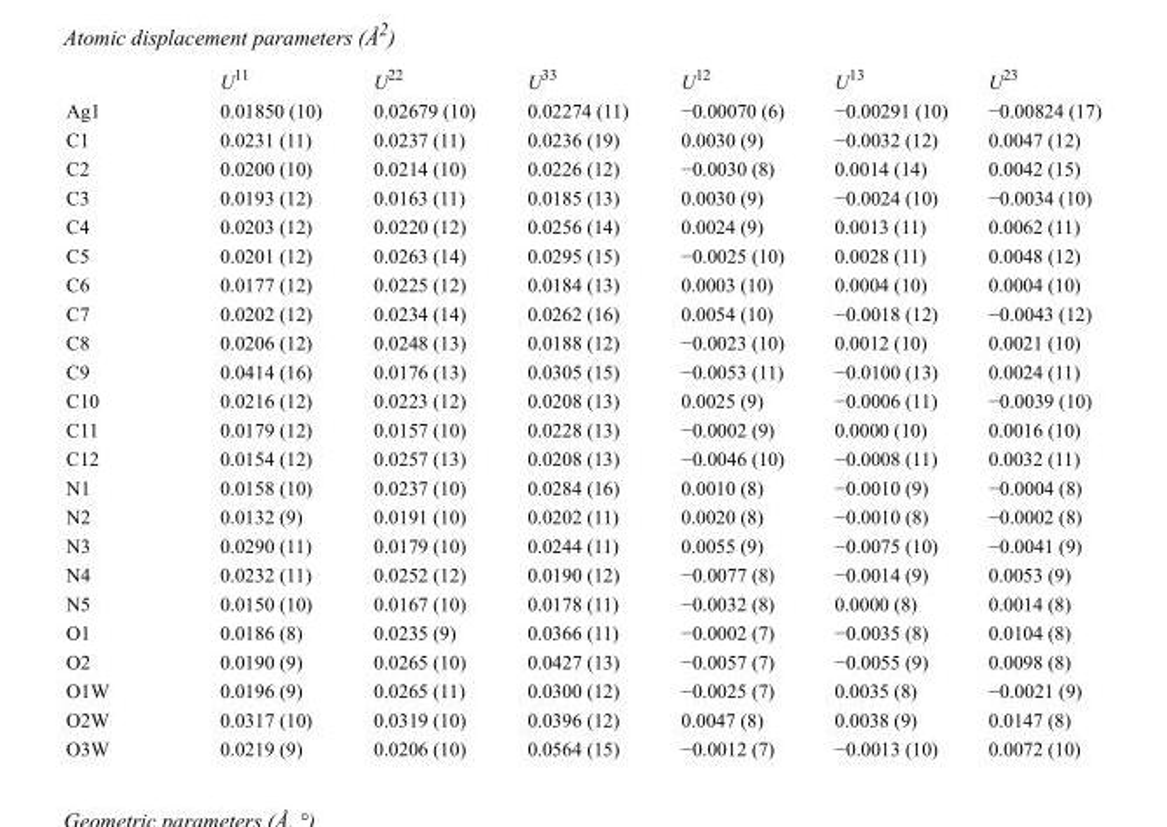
<table><thead><tr><td></td><td>U<sup>11</sup></td><td>U<sup>22</sup></td><td>U<sup>33</sup></td><td>U<sup>12</sup></td><td>U<sup>13</sup></td><td>U<sup>23</sup></td></tr></thead><tbody><tr><td>Ag1</td><td>0.01850 (10)</td><td>0.02679 (10)</td><td>0.02274 (11)</td><td>−0.00070 (6)</td><td>−0.00291 (10)</td><td>−0.00824 (17)</td></tr><tr><td>C1</td><td>0.0231 (11)</td><td>0.0237 (11)</td><td>0.0236 (19)</td><td>0.0030 (9)</td><td>−0.0032 (12)</td><td>0.0047 (12)</td></tr><tr><td>C2</td><td>0.0200 (10)</td><td>0.0214 (10)</td><td>0.0226 (12)</td><td>−0.0030 (8)</td><td>0.0014 (14)</td><td>0.0042 (15)</td></tr><tr><td>C3</td><td>0.0193 (12)</td><td>0.0163 (11)</td><td>0.0185 (13)</td><td>0.0030 (9)</td><td>−0.0024 (10)</td><td>−0.0034 (10)</td></tr><tr><td>C4</td><td>0.0203 (12)</td><td>0.0220 (12)</td><td>0.0256 (14)</td><td>0.0024 (9)</td><td>0.0013 (11)</td><td>0.0062 (11)</td></tr><tr><td>C5</td><td>0.0201 (12)</td><td>0.0263 (14)</td><td>0.0295 (15)</td><td>−0.0025 (10)</td><td>0.0028 (11)</td><td>0.0048 (12)</td></tr><tr><td>C6</td><td>0.0177 (12)</td><td>0.0225 (12)</td><td>0.0184 (13)</td><td>0.0003 (10)</td><td>0.0004 (10)</td><td>0.0004 (10)</td></tr><tr><td>C7</td><td>0.0202 (12)</td><td>0.0234 (14)</td><td>0.0262 (16)</td><td>0.0054 (10)</td><td>−0.0018 (12)</td><td>−0.0043 (12)</td></tr><tr><td>C8</td><td>0.0206 (12)</td><td>0.0248 (13)</td><td>0.0188 (12)</td><td>−0.0023 (10)</td><td>0.0012 (10)</td><td>0.0021 (10)</td></tr><tr><td>C9</td><td>0.0414 (16)</td><td>0.0176 (13)</td><td>0.0305 (15)</td><td>−0.0053 (11)</td><td>−0.0100 (13)</td><td>0.0024 (11)</td></tr><tr><td>C10</td><td>0.0216 (12)</td><td>0.0223 (12)</td><td>0.0208 (13)</td><td>0.0025 (9)</td><td>−0.0006 (11)</td><td>−0.0039 (10)</td></tr><tr><td>C11</td><td>0.0179 (12)</td><td>0.0157 (10)</td><td>0.0228 (13)</td><td>−0.0002 (9)</td><td>0.0000 (10)</td><td>0.0016 (10)</td></tr><tr><td>C12</td><td>0.0154 (12)</td><td>0.0257 (13)</td><td>0.0208 (13)</td><td>−0.0046 (10)</td><td>−0.0008 (11)</td><td>0.0032 (11)</td></tr><tr><td>N1</td><td>0.0158 (10)</td><td>0.0237 (10)</td><td>0.0284 (16)</td><td>0.0010 (8)</td><td>−0.0010 (9)</td><td>−0.0004 (8)</td></tr><tr><td>N2</td><td>0.0132 (9)</td><td>0.0191 (10)</td><td>0.0202 (11)</td><td>0.0020 (8)</td><td>−0.0010 (8)</td><td>−0.0002 (8)</td></tr><tr><td>N3</td><td>0.0290 (11)</td><td>0.0179 (10)</td><td>0.0244 (11)</td><td>0.0055 (9)</td><td>−0.0075 (10)</td><td>−0.0041 (9)</td></tr><tr><td>N4</td><td>0.0232 (11)</td><td>0.0252 (12)</td><td>0.0190 (12)</td><td>−0.0077 (8)</td><td>−0.0014 (9)</td><td>0.0053 (9)</td></tr><tr><td>N5</td><td>0.0150 (10)</td><td>0.0167 (10)</td><td>0.0178 (11)</td><td>−0.0032 (8)</td><td>0.0000 (8)</td><td>0.0014 (8)</td></tr><tr><td>O1</td><td>0.0186 (8)</td><td>0.0235 (9)</td><td>0.0366 (11)</td><td>−0.0002 (7)</td><td>−0.0035 (8)</td><td>0.0104 (8)</td></tr><tr><td>O2</td><td>0.0190 (9)</td><td>0.0265 (10)</td><td>0.0427 (13)</td><td>−0.0057 (7)</td><td>−0.0055 (9)</td><td>0.0098 (8)</td></tr><tr><td>O1W</td><td>0.0196 (9)</td><td>0.0265 (11)</td><td>0.0300 (12)</td><td>−0.0025 (7)</td><td>0.0035 (8)</td><td>−0.0021 (9)</td></tr><tr><td>O2W</td><td>0.0317 (10)</td><td>0.0319 (10)</td><td>0.0396 (12)</td><td>0.0047 (8)</td><td>0.0038 (9)</td><td>0.0147 (8)</td></tr><tr><td>O3W</td><td>0.0219 (9)</td><td>0.0206 (10)</td><td>0.0564 (15)</td><td>−0.0012 (7)</td><td>−0.0013 (10)</td><td>0.0072 (10)</td></tr></tbody></table>